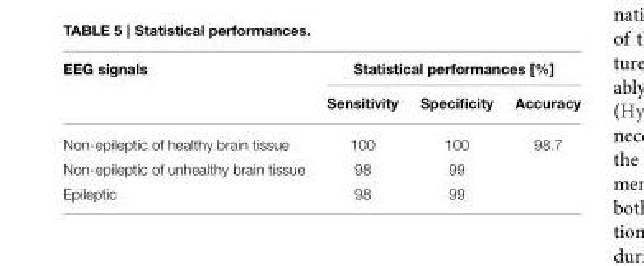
<table><thead><tr><td rowspan="2">EEG signals</td><td colspan="3">Statistical performances [%]</td></tr><tr><td>Sensitivity</td><td>Specificity</td><td>Accuracy</td></tr></thead><tbody><tr><td>Non-epileptic of healthy brain tissue</td><td>100</td><td>100</td><td>98.7</td></tr><tr><td>Non-epileptic of unhealthy brain tissue</td><td>98</td><td>99</td><td></td></tr><tr><td>Epileptic</td><td>98</td><td>99</td><td></td></tr></tbody></table>